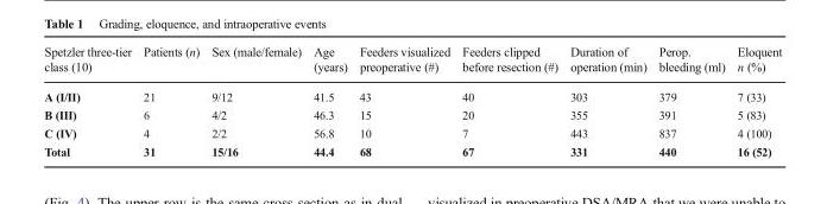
<table><thead><tr><td>Spetzler three-tier class (10)</td><td>Patients (n)</td><td>Sex (male/female)</td><td>Age (years)</td><td>Feeders visualized preoperative (#)</td><td>Feeders clipped before resection (#)</td><td>Duration of operation (min)</td><td>Perop. bleeding (ml)</td><td>Eloquent n (%)</td></tr></thead><tbody><tr><td>A (I/II)</td><td>21</td><td>9/12</td><td>41.5</td><td>43</td><td>40</td><td>303</td><td>379</td><td>7 (33)</td></tr><tr><td>B (III)</td><td>6</td><td>4/2</td><td>46.3</td><td>15</td><td>20</td><td>355</td><td>391</td><td>5 (83)</td></tr><tr><td>C (IV)</td><td>4</td><td>2/2</td><td>56.8</td><td>10</td><td>7</td><td>443</td><td>837</td><td>4 (100)</td></tr><tr><td>Total</td><td>31</td><td>15/16</td><td>44.4</td><td>68</td><td>67</td><td>331</td><td>440</td><td>16 (52)</td></tr></tbody></table>